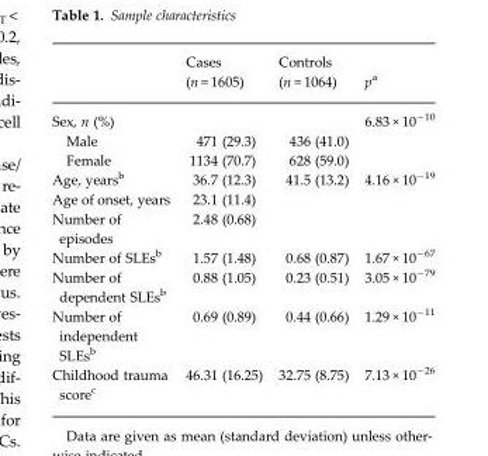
<table><thead><tr><td></td><td>Cases (n = 1605)</td><td>Controls (n = 1064)</td><td>p<sup>a</sup></td></tr></thead><tbody><tr><td>Sex, n (%)</td><td></td><td></td><td>6.83 × 10<sup>−10</sup></td></tr><tr><td>Male</td><td>471 (29.3)</td><td>436 (41.0)</td><td></td></tr><tr><td>Female</td><td>1134 (70.7)</td><td>628 (59.0)</td><td></td></tr><tr><td>Age, years<sup>b</sup></td><td>36.7 (12.3)</td><td>41.5 (13.2)</td><td>4.16 × 10<sup>−19</sup></td></tr><tr><td>Age of onset, years</td><td>23.1 (11.4)</td><td></td><td></td></tr><tr><td>Number of episodes</td><td>2.48 (0.68)</td><td></td><td></td></tr><tr><td>Number of SLEs<sup>b</sup></td><td>1.57 (1.48)</td><td>0.68 (0.87)</td><td>1.67 × 10<sup>−67</sup></td></tr><tr><td>Number of dependent SLEs<sup>b</sup></td><td>0.88 (1.05)</td><td>0.23 (0.51)</td><td>3.05 × 10<sup>−79</sup></td></tr><tr><td>Number of independent SLEs<sup>b</sup></td><td>0.69 (0.89)</td><td>0.44 (0.66)</td><td>1.29 × 10<sup>−11</sup></td></tr><tr><td>Childhood trauma score<sup>c</sup></td><td>46.31 (16.25)</td><td>32.75 (8.75)</td><td>7.13 × 10<sup>−26</sup></td></tr></tbody></table>